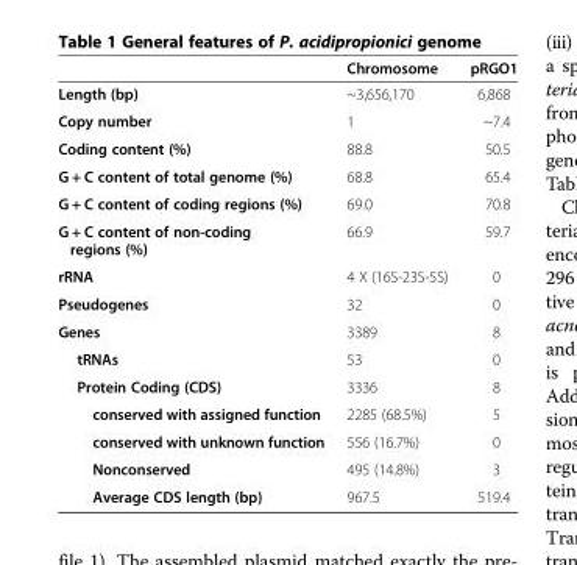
<table><thead><tr><td></td><td>Chromosome</td><td>pRGO1</td></tr></thead><tbody><tr><td>Length (bp)</td><td>~3,656,170</td><td>6,868</td></tr><tr><td>Copy number</td><td>1</td><td>~7.4</td></tr><tr><td>Coding content (%)</td><td>88.8</td><td>50.5</td></tr><tr><td>G + C content of total genome (%)</td><td>68.8</td><td>65.4</td></tr><tr><td>G + C content of coding regions (%)</td><td>69.0</td><td>70.8</td></tr><tr><td>G + C content of non-coding regions (%)</td><td>66.9</td><td>59.7</td></tr><tr><td>rRNA</td><td>4 X (16S-23S-5S)</td><td>0</td></tr><tr><td>Pseudogenes</td><td>32</td><td>0</td></tr><tr><td>Genes</td><td>3389</td><td>8</td></tr><tr><td>tRNAs</td><td>53</td><td>0</td></tr><tr><td>Protein Coding (CDS)</td><td>3336</td><td>8</td></tr><tr><td>conserved with assigned function</td><td>2285 (68.5%)</td><td>5</td></tr><tr><td>conserved with unknown function</td><td>556 (16.7%)</td><td>0</td></tr><tr><td>Nonconserved</td><td>495 (14.8%)</td><td>3</td></tr><tr><td>Average CDS length (bp)</td><td>967.5</td><td>519.4</td></tr></tbody></table>